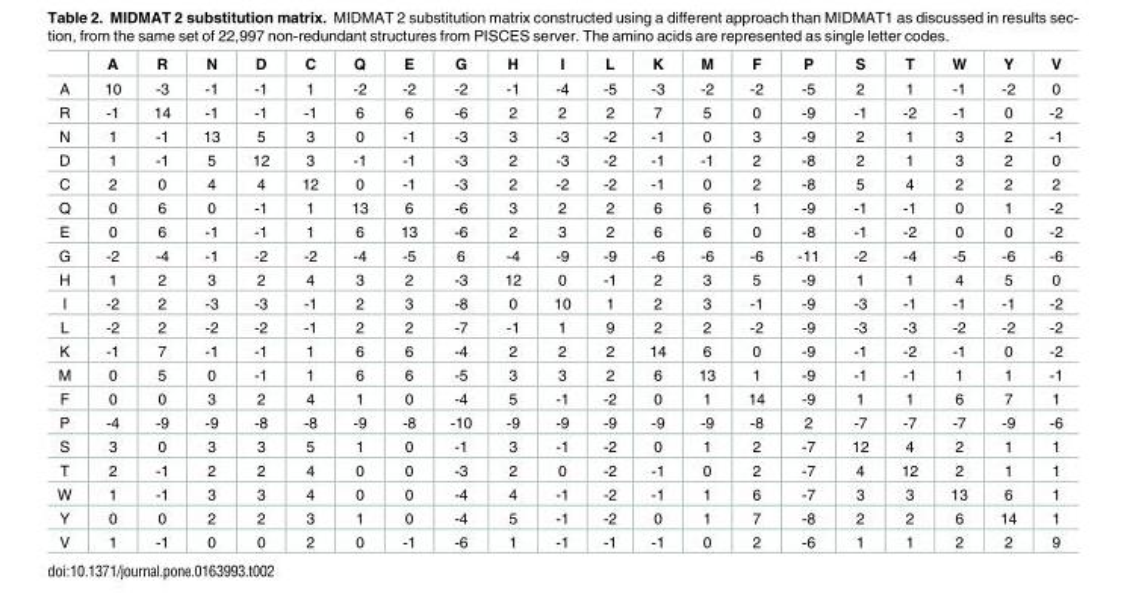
<table><thead><tr><td></td><td>A</td><td>R</td><td>N</td><td>D</td><td>C</td><td>Q</td><td>E</td><td>G</td><td>H</td><td>I</td><td>L</td><td>K</td><td>M</td><td>F</td><td>P</td><td>S</td><td>T</td><td>W</td><td>Y</td><td>V</td></tr></thead><tbody><tr><td>A</td><td>10</td><td>-3</td><td>-1</td><td>-1</td><td>1</td><td>-2</td><td>-2</td><td>-2</td><td>-1</td><td>-4</td><td>-5</td><td>-3</td><td>-2</td><td>-2</td><td>-5</td><td>2</td><td>1</td><td>-1</td><td>-2</td><td>0</td></tr><tr><td>R</td><td>-1</td><td>14</td><td>-1</td><td>-1</td><td>-1</td><td>6</td><td>6</td><td>-6</td><td>2</td><td>2</td><td>2</td><td>7</td><td>5</td><td>0</td><td>-9</td><td>-1</td><td>-2</td><td>-1</td><td>0</td><td>-2</td></tr><tr><td>N</td><td>1</td><td>-1</td><td>13</td><td>5</td><td>3</td><td>0</td><td>-1</td><td>-3</td><td>3</td><td>-3</td><td>-2</td><td>-1</td><td>0</td><td>3</td><td>-9</td><td>2</td><td>1</td><td>3</td><td>2</td><td>-1</td></tr><tr><td>D</td><td>1</td><td>-1</td><td>5</td><td>12</td><td>3</td><td>-1</td><td>-1</td><td>-3</td><td>2</td><td>-3</td><td>-2</td><td>-1</td><td>-1</td><td>2</td><td>-8</td><td>2</td><td>1</td><td>3</td><td>2</td><td>0</td></tr><tr><td>C</td><td>2</td><td>0</td><td>4</td><td>4</td><td>12</td><td>0</td><td>-1</td><td>-3</td><td>2</td><td>-2</td><td>-2</td><td>-1</td><td>0</td><td>2</td><td>-8</td><td>5</td><td>4</td><td>2</td><td>2</td><td>2</td></tr><tr><td>Q</td><td>0</td><td>6</td><td>0</td><td>-1</td><td>1</td><td>13</td><td>6</td><td>-6</td><td>3</td><td>2</td><td>2</td><td>6</td><td>6</td><td>1</td><td>-9</td><td>-1</td><td>-1</td><td>0</td><td>1</td><td>-2</td></tr><tr><td>E</td><td>0</td><td>6</td><td>-1</td><td>-1</td><td>1</td><td>6</td><td>13</td><td>-6</td><td>2</td><td>3</td><td>2</td><td>6</td><td>6</td><td>0</td><td>-8</td><td>-1</td><td>-2</td><td>0</td><td>0</td><td>-2</td></tr><tr><td>G</td><td>-2</td><td>-4</td><td>-1</td><td>-2</td><td>-2</td><td>-4</td><td>-5</td><td>6</td><td>-4</td><td>-9</td><td>-9</td><td>-6</td><td>-6</td><td>-6</td><td>-11</td><td>-2</td><td>-4</td><td>-5</td><td>-6</td><td>-6</td></tr><tr><td>H</td><td>1</td><td>2</td><td>3</td><td>2</td><td>4</td><td>3</td><td>2</td><td>-3</td><td>12</td><td>0</td><td>-1</td><td>2</td><td>3</td><td>5</td><td>-9</td><td>1</td><td>1</td><td>4</td><td>5</td><td>0</td></tr><tr><td>I</td><td>-2</td><td>2</td><td>-3</td><td>-3</td><td>-1</td><td>2</td><td>3</td><td>-8</td><td>0</td><td>10</td><td>1</td><td>2</td><td>3</td><td>-1</td><td>-9</td><td>-3</td><td>-1</td><td>-1</td><td>-1</td><td>-2</td></tr><tr><td>L</td><td>-2</td><td>2</td><td>-2</td><td>-2</td><td>-1</td><td>2</td><td>2</td><td>-7</td><td>-1</td><td>1</td><td>9</td><td>2</td><td>2</td><td>-2</td><td>-9</td><td>-3</td><td>-3</td><td>-2</td><td>-2</td><td>-2</td></tr><tr><td>K</td><td>-1</td><td>7</td><td>-1</td><td>-1</td><td>1</td><td>6</td><td>6</td><td>-4</td><td>2</td><td>2</td><td>2</td><td>14</td><td>6</td><td>0</td><td>-9</td><td>-1</td><td>-2</td><td>-1</td><td>0</td><td>-2</td></tr><tr><td>M</td><td>0</td><td>5</td><td>0</td><td>-1</td><td>1</td><td>6</td><td>6</td><td>-5</td><td>3</td><td>3</td><td>2</td><td>6</td><td>13</td><td>1</td><td>-9</td><td>-1</td><td>-1</td><td>1</td><td>1</td><td>-1</td></tr><tr><td>F</td><td>0</td><td>0</td><td>3</td><td>2</td><td>4</td><td>1</td><td>0</td><td>-4</td><td>5</td><td>-1</td><td>-2</td><td>0</td><td>1</td><td>14</td><td>-9</td><td>1</td><td>1</td><td>6</td><td>7</td><td>1</td></tr><tr><td>P</td><td>-4</td><td>-9</td><td>-9</td><td>-8</td><td>-8</td><td>-9</td><td>-8</td><td>-10</td><td>-9</td><td>-9</td><td>-9</td><td>-9</td><td>-9</td><td>-8</td><td>2</td><td>-7</td><td>-7</td><td>-7</td><td>-9</td><td>-6</td></tr><tr><td>S</td><td>3</td><td>0</td><td>3</td><td>3</td><td>5</td><td>1</td><td>0</td><td>-1</td><td>3</td><td>-1</td><td>-2</td><td>0</td><td>1</td><td>2</td><td>-7</td><td>12</td><td>4</td><td>2</td><td>1</td><td>1</td></tr><tr><td>T</td><td>2</td><td>-1</td><td>2</td><td>2</td><td>4</td><td>0</td><td>0</td><td>-3</td><td>2</td><td>0</td><td>-2</td><td>-1</td><td>0</td><td>2</td><td>-7</td><td>4</td><td>12</td><td>2</td><td>1</td><td>1</td></tr><tr><td>W</td><td>1</td><td>-1</td><td>3</td><td>3</td><td>4</td><td>0</td><td>0</td><td>-4</td><td>4</td><td>-1</td><td>-2</td><td>-1</td><td>1</td><td>6</td><td>-7</td><td>3</td><td>3</td><td>13</td><td>6</td><td>1</td></tr><tr><td>Y</td><td>0</td><td>0</td><td>2</td><td>2</td><td>3</td><td>1</td><td>0</td><td>-4</td><td>5</td><td>-1</td><td>-2</td><td>0</td><td>1</td><td>7</td><td>-8</td><td>2</td><td>2</td><td>6</td><td>14</td><td>1</td></tr><tr><td>V</td><td>1</td><td>-1</td><td>0</td><td>0</td><td>2</td><td>0</td><td>-1</td><td>-6</td><td>1</td><td>-1</td><td>-1</td><td>-1</td><td>0</td><td>2</td><td>-6</td><td>1</td><td>1</td><td>2</td><td>2</td><td>9</td></tr></tbody></table>